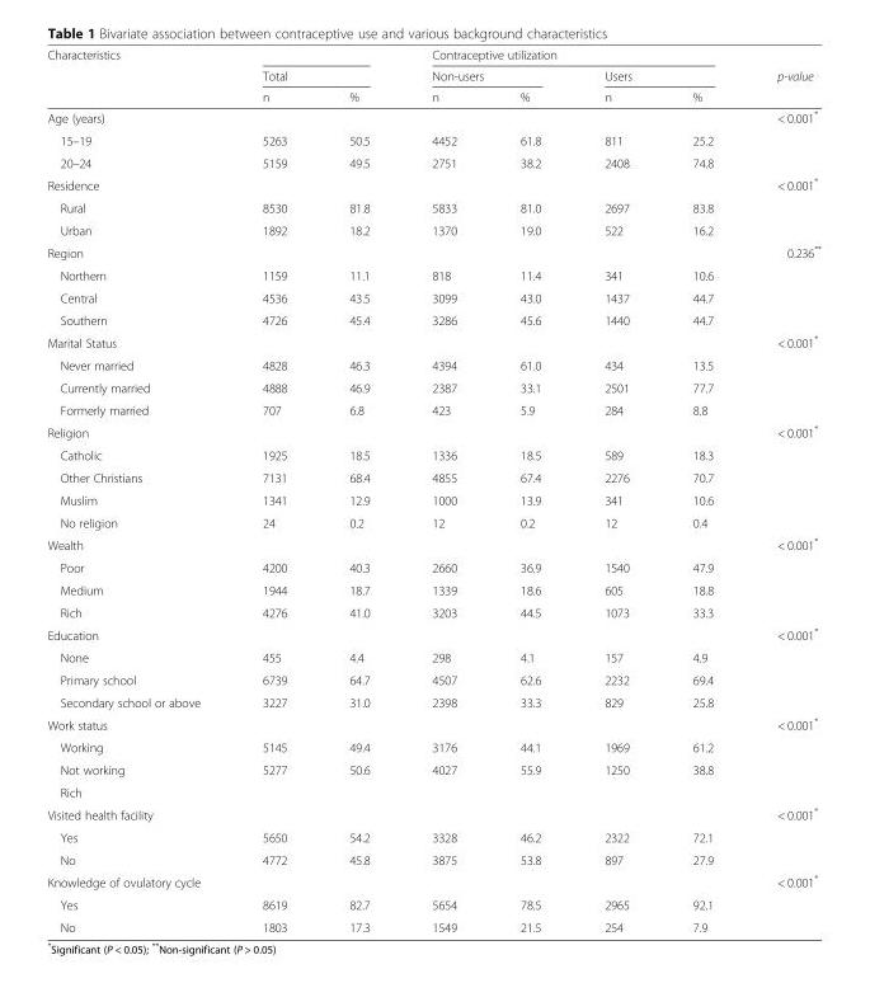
<table><thead><tr><td rowspan="3">Characteristics</td><td></td><td></td><td colspan="4">Contraceptive utilization</td><td rowspan="3">p-value</td></tr><tr><td colspan="2">Total</td><td colspan="2">Non-users</td><td colspan="2">Users</td></tr><tr><td>n</td><td>%</td><td>n</td><td>%</td><td>n</td><td>%</td></tr></thead><tbody><tr><td colspan="7">Age (years)</td><td>&lt; 0.001*</td></tr><tr><td>15–19</td><td>5263</td><td>50.5</td><td>4452</td><td>61.8</td><td>811</td><td>25.2</td><td></td></tr><tr><td>20–24</td><td>5159</td><td>49.5</td><td>2751</td><td>38.2</td><td>2408</td><td>74.8</td><td></td></tr><tr><td colspan="7">Residence</td><td>&lt; 0.001*</td></tr><tr><td>Rural</td><td>8530</td><td>81.8</td><td>5833</td><td>81.0</td><td>2697</td><td>83.8</td><td></td></tr><tr><td>Urban</td><td>1892</td><td>18.2</td><td>1370</td><td>19.0</td><td>522</td><td>16.2</td><td></td></tr><tr><td colspan="7">Region</td><td>0.236**</td></tr><tr><td>Northern</td><td>1159</td><td>11.1</td><td>818</td><td>11.4</td><td>341</td><td>10.6</td><td></td></tr><tr><td>Central</td><td>4536</td><td>43.5</td><td>3099</td><td>43.0</td><td>1437</td><td>44.7</td><td></td></tr><tr><td>Southern</td><td>4726</td><td>45.4</td><td>3286</td><td>45.6</td><td>1440</td><td>44.7</td><td></td></tr><tr><td colspan="7">Marital Status</td><td>&lt; 0.001*</td></tr><tr><td>Never married</td><td>4828</td><td>46.3</td><td>4394</td><td>61.0</td><td>434</td><td>13.5</td><td></td></tr><tr><td>Currently married</td><td>4888</td><td>46.9</td><td>2387</td><td>33.1</td><td>2501</td><td>77.7</td><td></td></tr><tr><td>Formerly married</td><td>707</td><td>6.8</td><td>423</td><td>5.9</td><td>284</td><td>8.8</td><td></td></tr><tr><td colspan="7">Religion</td><td>&lt; 0.001*</td></tr><tr><td>Catholic</td><td>1925</td><td>18.5</td><td>1336</td><td>18.5</td><td>589</td><td>18.3</td><td></td></tr><tr><td>Other Christians</td><td>7131</td><td>68.4</td><td>4855</td><td>67.4</td><td>2276</td><td>70.7</td><td></td></tr><tr><td>Muslim</td><td>1341</td><td>12.9</td><td>1000</td><td>13.9</td><td>341</td><td>10.6</td><td></td></tr><tr><td>No religion</td><td>24</td><td>0.2</td><td>12</td><td>0.2</td><td>12</td><td>0.4</td><td></td></tr><tr><td colspan="7">Wealth</td><td>&lt; 0.001*</td></tr><tr><td>Poor</td><td>4200</td><td>40.3</td><td>2660</td><td>36.9</td><td>1540</td><td>47.9</td><td></td></tr><tr><td>Medium</td><td>1944</td><td>18.7</td><td>1339</td><td>18.6</td><td>605</td><td>18.8</td><td></td></tr><tr><td>Rich</td><td>4276</td><td>41.0</td><td>3203</td><td>44.5</td><td>1073</td><td>33.3</td><td></td></tr><tr><td colspan="7">Education</td><td>&lt; 0.001*</td></tr><tr><td>None</td><td>455</td><td>4.4</td><td>298</td><td>4.1</td><td>157</td><td>4.9</td><td></td></tr><tr><td>Primary school</td><td>6739</td><td>64.7</td><td>4507</td><td>62.6</td><td>2232</td><td>69.4</td><td></td></tr><tr><td>Secondary school or above</td><td>3227</td><td>31.0</td><td>2398</td><td>33.3</td><td>829</td><td>25.8</td><td></td></tr><tr><td colspan="7">Work status</td><td>&lt; 0.001*</td></tr><tr><td>Working</td><td>5145</td><td>49.4</td><td>3176</td><td>44.1</td><td>1969</td><td>61.2</td><td></td></tr><tr><td>Not working</td><td>5277</td><td>50.6</td><td>4027</td><td>55.9</td><td>1250</td><td>38.8</td><td></td></tr><tr><td colspan="8">Rich</td></tr><tr><td colspan="7">Visited health facility</td><td>&lt; 0.001*</td></tr><tr><td>Yes</td><td>5650</td><td>54.2</td><td>3328</td><td>46.2</td><td>2322</td><td>72.1</td><td></td></tr><tr><td>No</td><td>4772</td><td>45.8</td><td>3875</td><td>53.8</td><td>897</td><td>27.9</td><td></td></tr><tr><td colspan="7">Knowledge of ovulatory cycle</td><td>&lt; 0.001*</td></tr><tr><td>Yes</td><td>8619</td><td>82.7</td><td>5654</td><td>78.5</td><td>2965</td><td>92.1</td><td></td></tr><tr><td>No</td><td>1803</td><td>17.3</td><td>1549</td><td>21.5</td><td>254</td><td>7.9</td><td></td></tr></tbody></table>